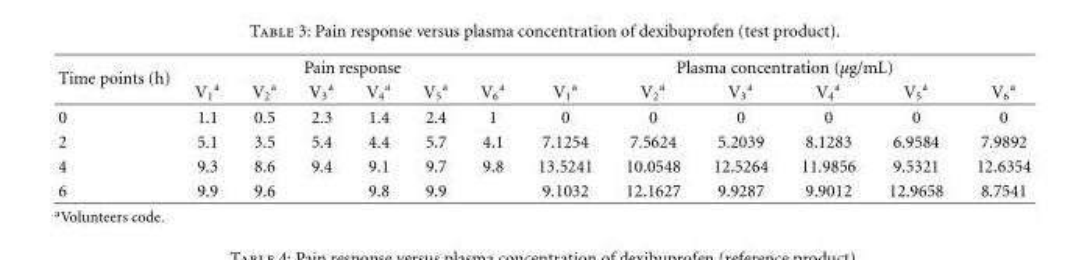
<table><thead><tr><td rowspan="2">Time points (h)</td><td colspan="6">Pain response</td><td colspan="6">Plasma concentration (μg/mL)</td></tr><tr><td>V<sub>1</sub> <sup>a</sup></td><td>V<sub>2</sub> <sup>a</sup></td><td>V<sub>3</sub> <sup>a</sup></td><td>V<sub>4</sub> <sup>a</sup></td><td>V<sub>5</sub> <sup>a</sup></td><td>V<sub>6</sub> <sup>a</sup></td><td>V<sub>1</sub> <sup>a</sup></td><td>V<sub>2</sub> <sup>a</sup></td><td>V<sub>3</sub> <sup>a</sup></td><td>V<sub>4</sub> <sup>a</sup></td><td>V<sub>5</sub> <sup>a</sup></td><td>V<sub>6</sub> <sup>a</sup></td></tr></thead><tbody><tr><td>0</td><td>1.1</td><td>0.5</td><td>2.3</td><td>1.4</td><td>2.4</td><td>1</td><td>0</td><td>0</td><td>0</td><td>0</td><td>0</td><td>0</td></tr><tr><td>2</td><td>5.1</td><td>3.5</td><td>5.4</td><td>4.4</td><td>5.7</td><td>4.1</td><td>7.1254</td><td>7.5624</td><td>5.2039</td><td>8.1283</td><td>6.9584</td><td>7.9892</td></tr><tr><td>4</td><td>9.3</td><td>8.6</td><td>9.4</td><td>9.1</td><td>9.7</td><td>9.8</td><td>13.5241</td><td>10.0548</td><td>12.5264</td><td>11.9856</td><td>9.5321</td><td>12.6354</td></tr><tr><td>6</td><td>9.9</td><td>9.6</td><td></td><td>9.8</td><td>9.9</td><td></td><td>9.1032</td><td>12.1627</td><td>9.9287</td><td>9.9012</td><td>12.9658</td><td>8.7541</td></tr></tbody></table>